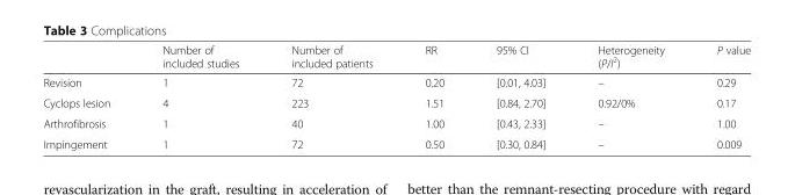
<table><thead><tr><td></td><td>Number of included studies</td><td>Number of included patients</td><td>RR</td><td>95% CI</td><td>Heterogeneity (P/I<sup>2</sup>)</td><td>P value</td></tr></thead><tbody><tr><td>Revision</td><td>1</td><td>72</td><td>0.20</td><td>[0.01, 4.03]</td><td>–</td><td>0.29</td></tr><tr><td>Cyclops lesion</td><td>4</td><td>223</td><td>1.51</td><td>[0.84, 2.70]</td><td>0.92/0%</td><td>0.17</td></tr><tr><td>Arthrofibrosis</td><td>1</td><td>40</td><td>1.00</td><td>[0.43, 2.33]</td><td>–</td><td>1.00</td></tr><tr><td>Impingement</td><td>1</td><td>72</td><td>0.50</td><td>[0.30, 0.84]</td><td>–</td><td>0.009</td></tr></tbody></table>